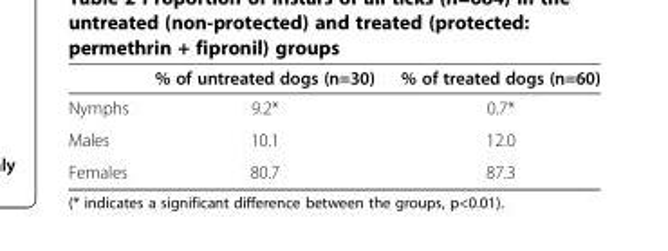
<table><thead><tr><td></td><td>% of untreated dogs (n=30)</td><td>% of treated dogs (n=60)</td></tr></thead><tbody><tr><td>Nymphs</td><td>9.2*</td><td>0.7*</td></tr><tr><td>Males</td><td>10.1</td><td>12.0</td></tr><tr><td>Females</td><td>80.7</td><td>87.3</td></tr></tbody></table>